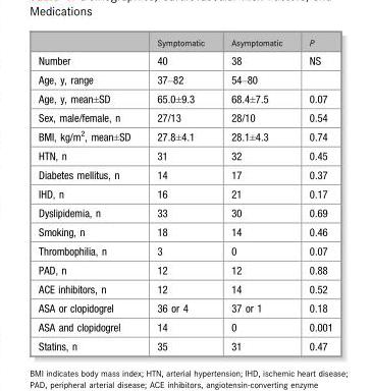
<table><thead><tr><td></td><td>Symptomatic</td><td>Asymptomatic</td><td>P</td></tr></thead><tbody><tr><td>Number</td><td>40</td><td>38</td><td>NS</td></tr><tr><td>Age, y, range</td><td>37–82</td><td>54–80</td><td></td></tr><tr><td>Age, y, mean±SD</td><td>65.0±9.3</td><td>68.4±7.5</td><td>0.07</td></tr><tr><td>Sex, male/female, n</td><td>27/13</td><td>28/10</td><td>0.54</td></tr><tr><td>BMI, kg/m<sup>2</sup>, mean±SD</td><td>27.8±4.1</td><td>28.1±4.3</td><td>0.74</td></tr><tr><td>HTN, n</td><td>31</td><td>32</td><td>0.45</td></tr><tr><td>Diabetes mellitus, n</td><td>14</td><td>17</td><td>0.37</td></tr><tr><td>IHD, n</td><td>16</td><td>21</td><td>0.17</td></tr><tr><td>Dyslipidemia, n</td><td>33</td><td>30</td><td>0.69</td></tr><tr><td>Smoking, n</td><td>18</td><td>14</td><td>0.46</td></tr><tr><td>Thrombophilia, n</td><td>3</td><td>0</td><td>0.07</td></tr><tr><td>PAD, n</td><td>12</td><td>12</td><td>0.88</td></tr><tr><td>ACE inhibitors, n</td><td>12</td><td>14</td><td>0.52</td></tr><tr><td>ASA or clopidogrel</td><td>36 or 4</td><td>37 or 1</td><td>0.18</td></tr><tr><td>ASA and clopidogrel</td><td>14</td><td>0</td><td>0.001</td></tr><tr><td>Statins, n</td><td>35</td><td>31</td><td>0.47</td></tr></tbody></table>